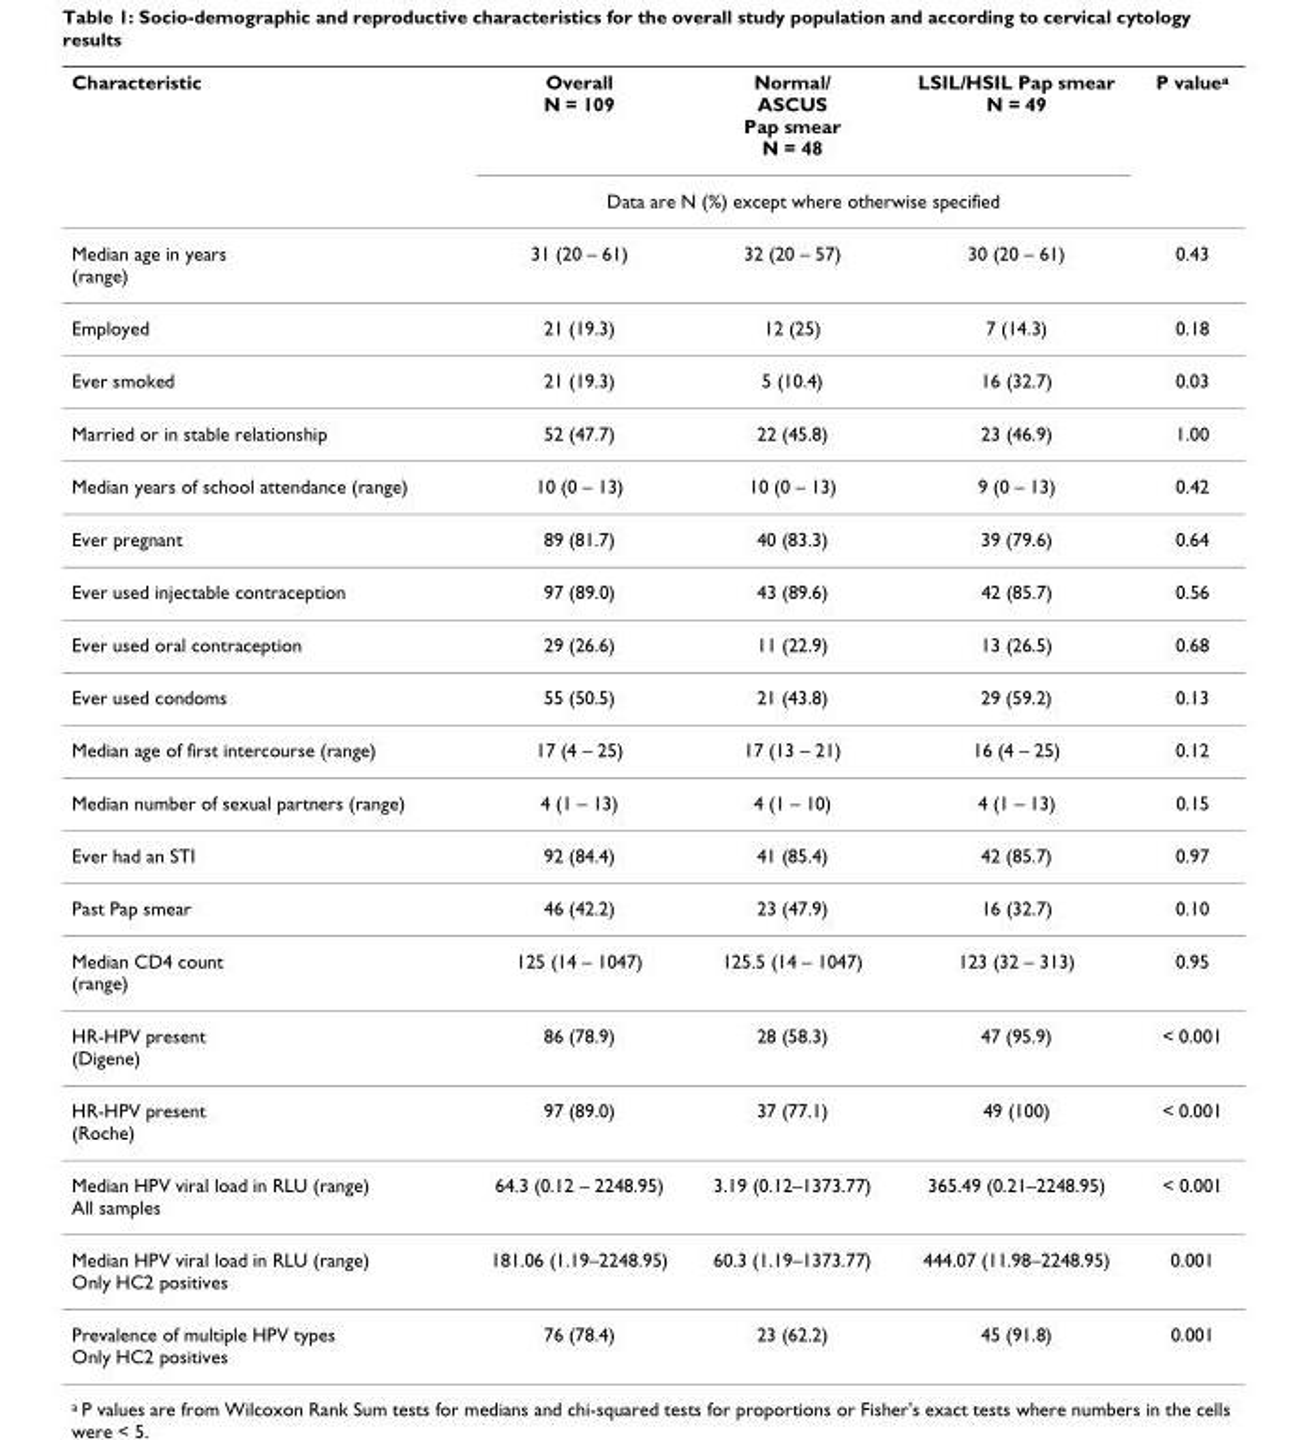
<table><thead><tr><td rowspan="2">Characteristic</td><td>Overall N = 109</td><td>Normal/ ASCUS Pap smear N = 48</td><td>LSIL/HSIL Pap smear N = 49</td><td rowspan="2">P value<sup>a</sup></td></tr><tr><td colspan="3">Data are N (%) except where otherwise specified</td></tr></thead><tbody><tr><td>Median age in years (range)</td><td>31 (20 – 61)</td><td>32 (20 – 57)</td><td>30 (20 – 61)</td><td>0.43</td></tr><tr><td>Employed</td><td>21 (19.3)</td><td>12 (25)</td><td>7 (14.3)</td><td>0.18</td></tr><tr><td>Ever smoked</td><td>21 (19.3)</td><td>5 (10.4)</td><td>16 (32.7)</td><td>0.03</td></tr><tr><td>Married or in stable relationship</td><td>52 (47.7)</td><td>22 (45.8)</td><td>23 (46.9)</td><td>1.00</td></tr><tr><td>Median years of school attendance (range)</td><td>10 (0 – 13)</td><td>10 (0 – 13)</td><td>9 (0 – 13)</td><td>0.42</td></tr><tr><td>Ever pregnant</td><td>89 (81.7)</td><td>40 (83.3)</td><td>39 (79.6)</td><td>0.64</td></tr><tr><td>Ever used injectable contraception</td><td>97 (89.0)</td><td>43 (89.6)</td><td>42 (85.7)</td><td>0.56</td></tr><tr><td>Ever used oral contraception</td><td>29 (26.6)</td><td>11 (22.9)</td><td>13 (26.5)</td><td>0.68</td></tr><tr><td>Ever used condoms</td><td>55 (50.5)</td><td>21 (43.8)</td><td>29 (59.2)</td><td>0.13</td></tr><tr><td>Median age of first intercourse (range)</td><td>17 (4 – 25)</td><td>17 (13 – 21)</td><td>16 (4 – 25)</td><td>0.12</td></tr><tr><td>Median number of sexual partners (range)</td><td>4 (1 – 13)</td><td>4 (1 – 10)</td><td>4 (1 – 13)</td><td>0.15</td></tr><tr><td>Ever had an STI</td><td>92 (84.4)</td><td>41 (85.4)</td><td>42 (85.7)</td><td>0.97</td></tr><tr><td>Past Pap smear</td><td>46 (42.2)</td><td>23 (47.9)</td><td>16 (32.7)</td><td>0.10</td></tr><tr><td>Median CD4 count (range)</td><td>125 (14 – 1047)</td><td>125.5 (14 – 1047)</td><td>123 (32 – 313)</td><td>0.95</td></tr><tr><td>HR-HPV present (Digene)</td><td>86 (78.9)</td><td>28 (58.3)</td><td>47 (95.9)</td><td>&lt; 0.001</td></tr><tr><td>HR-HPV present (Roche)</td><td>97 (89.0)</td><td>37 (77.1)</td><td>49 (100)</td><td>&lt; 0.001</td></tr><tr><td>Median HPV viral load in RLU (range) All samples</td><td>64.3 (0.12 – 2248.95)</td><td>3.19 (0.12–1373.77)</td><td>365.49 (0.21–2248.95)</td><td>&lt; 0.001</td></tr><tr><td>Median HPV viral load in RLU (range) Only HC2 positives</td><td>181.06 (1.19–2248.95)</td><td>60.3 (1.19–1373.77)</td><td>444.07 (11.98–2248.95)</td><td>0.001</td></tr><tr><td>Prevalence of multiple HPV types Only HC2 positives</td><td>76 (78.4)</td><td>23 (62.2)</td><td>45 (91.8)</td><td>0.001</td></tr></tbody></table>